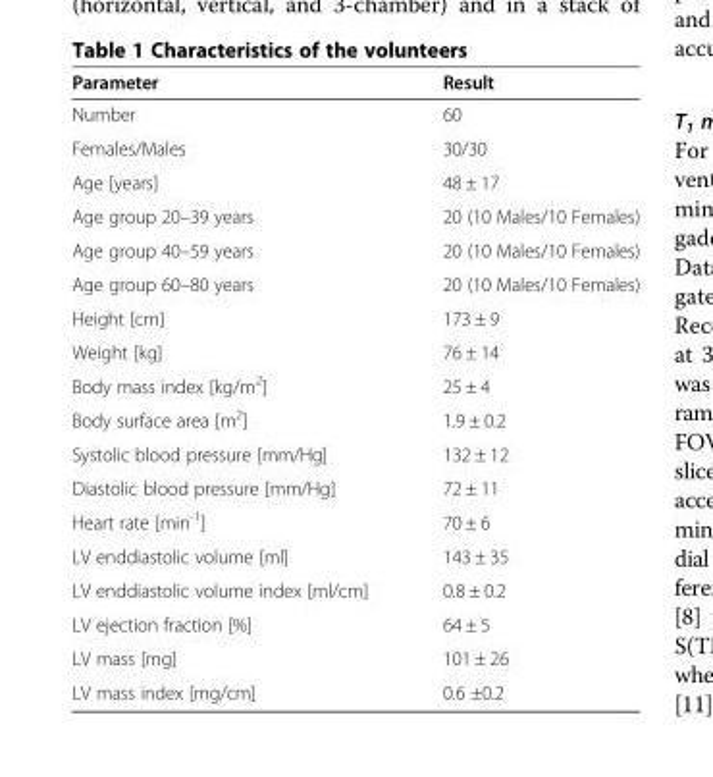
<table><thead><tr><td>Parameter</td><td>Result</td></tr></thead><tbody><tr><td>Number</td><td>60</td></tr><tr><td>Females/Males</td><td>30/30</td></tr><tr><td>Age [years]</td><td>48 ± 17</td></tr><tr><td>Age group 20–39 years</td><td>20 (10 Males/10 Females)</td></tr><tr><td>Age group 40–59 years</td><td>20 (10 Males/10 Females)</td></tr><tr><td>Age group 60–80 years</td><td>20 (10 Males/10 Females)</td></tr><tr><td>Height [cm]</td><td>173 ± 9</td></tr><tr><td>Weight [kg]</td><td>76 ± 14</td></tr><tr><td>Body mass index [kg/m<sup>2</sup>]</td><td>25 ± 4</td></tr><tr><td>Body surface area [m<sup>2</sup>]</td><td>1.9 ± 0.2</td></tr><tr><td>Systolic blood pressure [mm/Hg]</td><td>132 ± 12</td></tr><tr><td>Diastolic blood pressure [mm/Hg]</td><td>72 ± 11</td></tr><tr><td>Heart rate [min<sup>-1</sup>]</td><td>70 ± 6</td></tr><tr><td>LV enddiastolic volume [ml]</td><td>143 ± 35</td></tr><tr><td>LV enddiastolic volume index [ml/cm]</td><td>0.8 ± 0.2</td></tr><tr><td>LV ejection fraction [%]</td><td>64 ± 5</td></tr><tr><td>LV mass [mg]</td><td>101 ± 26</td></tr><tr><td>LV mass index [mg/cm]</td><td>0.6 ±0.2</td></tr></tbody></table>